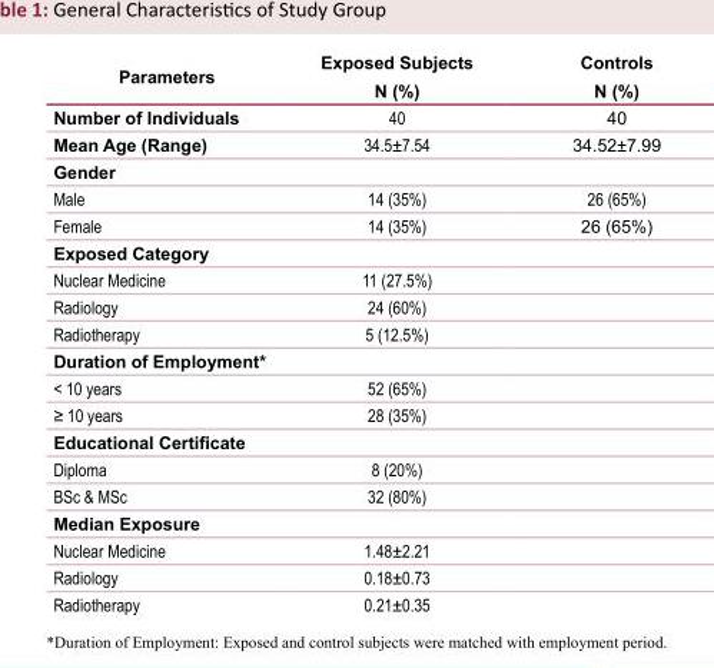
<table><thead><tr><td>Parameters</td><td>Exposed Subjects N (%)</td><td>Controls N (%)</td></tr></thead><tbody><tr><td>Number of Individuals</td><td>40</td><td>40</td></tr><tr><td>Mean Age (Range)</td><td>34.5±7.54</td><td>34.52±7.99</td></tr><tr><td colspan="3">Gender</td></tr><tr><td>Male</td><td>14 (35%)</td><td>26 (65%)</td></tr><tr><td>Female</td><td>14 (35%)</td><td>26 (65%)</td></tr><tr><td colspan="3">Exposed Category</td></tr><tr><td>Nuclear Medicine</td><td>11 (27.5%)</td><td></td></tr><tr><td>Radiology</td><td>24 (60%)</td><td></td></tr><tr><td>Radiotherapy</td><td>5 (12.5%)</td><td></td></tr><tr><td colspan="3">Duration of Employment*</td></tr><tr><td>&lt; 10 years</td><td>52 (65%)</td><td></td></tr><tr><td>≥ 10 years</td><td>28 (35%)</td><td></td></tr><tr><td colspan="3">Educational Certificate</td></tr><tr><td>Diploma</td><td>8 (20%)</td><td></td></tr><tr><td>BSc &amp; MSc</td><td>32 (80%)</td><td></td></tr><tr><td colspan="3">Median Exposure</td></tr><tr><td>Nuclear Medicine</td><td>1.48±2.21</td><td></td></tr><tr><td>Radiology</td><td>0.18±0.73</td><td></td></tr><tr><td>Radiotherapy</td><td>0.21±0.35</td><td></td></tr></tbody></table>